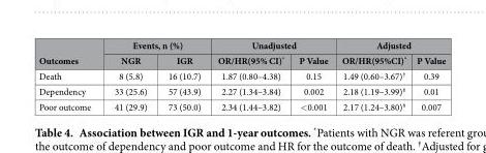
<table><thead><tr><td rowspan="2">Outcomes</td><td colspan="2">Events, n (%)</td><td colspan="2">Unadjusted</td><td colspan="2">Adjusted</td></tr><tr><td>NGR</td><td>IGR</td><td>OR/HR(95% CI)*</td><td>P Value</td><td>OR/HR(95%CI)*</td><td>P Value</td></tr></thead><tbody><tr><td>Death</td><td>8 (5.8)</td><td>16 (10.7)</td><td>1.87 (0.80–4.38)</td><td>0.15</td><td>1.49 (0.60–3.67)†</td><td>0.39</td></tr><tr><td>Dependency</td><td>33 (25.6)</td><td>57 (43.9)</td><td>2.27 (1.34–3.84)</td><td>0.002</td><td>2.18 (1.19–3.99)‡</td><td>0.01</td></tr><tr><td>Poor outcome</td><td>41 (29.9)</td><td>73 (50.0)</td><td>2.34 (1.44–3.82)</td><td>&lt; 0.001</td><td>2.17 (1.24–3.80)§</td><td>0.007</td></tr></tbody></table>